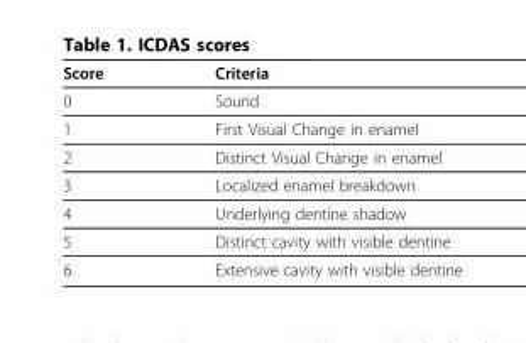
<table><thead><tr><td>Score</td><td>Criteria</td></tr></thead><tbody><tr><td>0</td><td>Sound</td></tr><tr><td>1</td><td>First Visual Change in enamel</td></tr><tr><td>2</td><td>Distinct Visual Change in enamel</td></tr><tr><td>3</td><td>Localized enamel breakdown</td></tr><tr><td>4</td><td>Underlying dentine shadow</td></tr><tr><td>5</td><td>Distinct cavity with visible dentine</td></tr><tr><td>6</td><td>Extensive cavity with visible dentine</td></tr></tbody></table>